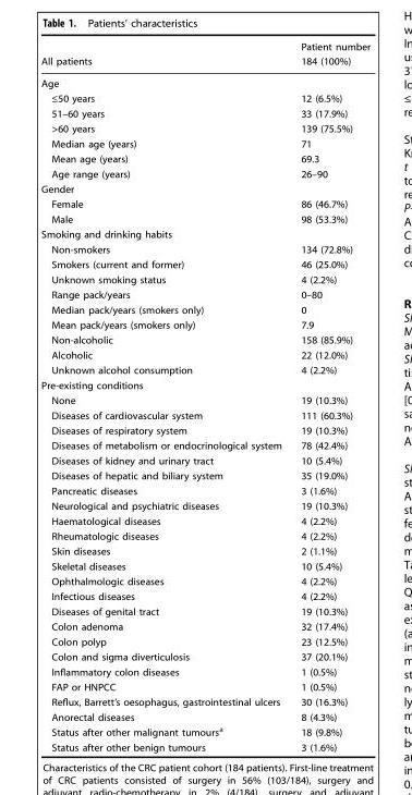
<table><thead><tr><td rowspan="2">All patients</td><td rowspan="2">Patient number 184 (100%)</td></tr><tr></tr></thead><tbody><tr><td colspan="2">Age</td></tr><tr><td>≤50 years</td><td>12 (6.5%)</td></tr><tr><td>51–60 years</td><td>33 (17.9%)</td></tr><tr><td>&gt;60 years</td><td>139 (75.5%)</td></tr><tr><td>Median age (years)</td><td>71</td></tr><tr><td>Mean age (years)</td><td>69.3</td></tr><tr><td>Age range (years)</td><td>26–90</td></tr><tr><td colspan="2">Gender</td></tr><tr><td>Female</td><td>86 (46.7%)</td></tr><tr><td>Male</td><td>98 (53.3%)</td></tr><tr><td colspan="2">Smoking and drinking habits</td></tr><tr><td>Non-smokers</td><td>134 (72.8%)</td></tr><tr><td>Smokers (current and former)</td><td>46 (25.0%)</td></tr><tr><td>Unknown smoking status</td><td>4 (2.2%)</td></tr><tr><td>Range pack/years</td><td>0–80</td></tr><tr><td>Median pack/years (smokers only)</td><td>0</td></tr><tr><td>Mean pack/years (smokers only)</td><td>7.9</td></tr><tr><td>Non-alcoholic</td><td>158 (85.9%)</td></tr><tr><td>Alcoholic</td><td>22 (12.0%)</td></tr><tr><td>Unknown alcohol consumption</td><td>4 (2.2%)</td></tr><tr><td colspan="2">Pre-existing conditions</td></tr><tr><td>None</td><td>19 (10.3%)</td></tr><tr><td>Diseases of cardiovascular system</td><td>111 (60.3%)</td></tr><tr><td>Diseases of respiratory system</td><td>19 (10.3%)</td></tr><tr><td>Diseases of metabolism or endocrinological system</td><td>78 (42.4%)</td></tr><tr><td>Diseases of kidney and urinary tract</td><td>10 (5.4%)</td></tr><tr><td>Diseases of hepatic and biliary system</td><td>35 (19.0%)</td></tr><tr><td>Pancreatic diseases</td><td>3 (1.6%)</td></tr><tr><td>Neurological and psychiatric diseases</td><td>19 (10.3%)</td></tr><tr><td>Haematological diseases</td><td>4 (2.2%)</td></tr><tr><td>Rheumatologic diseases</td><td>4 (2.2%)</td></tr><tr><td>Skin diseases</td><td>2 (1.1%)</td></tr><tr><td>Skeletal diseases</td><td>10 (5.4%)</td></tr><tr><td>Ophthalmologic diseases</td><td>4 (2.2%)</td></tr><tr><td>Infectious diseases</td><td>4 (2.2%)</td></tr><tr><td>Diseases of genital tract</td><td>19 (10.3%)</td></tr><tr><td>Colon adenoma</td><td>32 (17.4%)</td></tr><tr><td>Colon polyp</td><td>23 (12.5%)</td></tr><tr><td>Colon and sigma diverticulosis</td><td>37 (20.1%)</td></tr><tr><td>Inflammatory colon diseases</td><td>1 (0.5%)</td></tr><tr><td>FAP or HNPCC</td><td>1 (0.5%)</td></tr><tr><td>Reflux, Barrett’s oesophagus, gastrointestinal ulcers</td><td>30 (16.3%)</td></tr><tr><td>Anorectal diseases</td><td>8 (4.3%)</td></tr><tr><td>Status after other malignant tumours<sup>a</sup></td><td>18 (9.8%)</td></tr><tr><td>Status after other benign tumours</td><td>3 (1.6%)</td></tr></tbody></table>